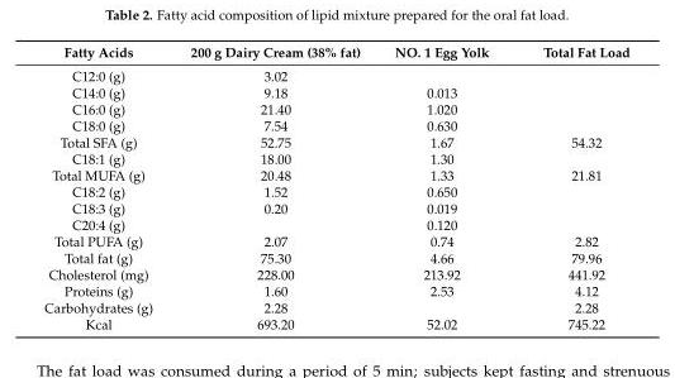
<table><thead><tr><td>Fatty Acids</td><td>200 g Dairy Cream (38% fat)</td><td>NO. 1 Egg Yolk</td><td>Total Fat Load</td></tr></thead><tbody><tr><td>C12:0 (g)</td><td>3.02</td><td></td><td></td></tr><tr><td>C14:0 (g)</td><td>9.18</td><td>0.013</td><td></td></tr><tr><td>C16:0 (g)</td><td>21.40</td><td>1.020</td><td></td></tr><tr><td>C18:0 (g)</td><td>7.54</td><td>0.630</td><td></td></tr><tr><td>Total SFA (g)</td><td>52.75</td><td>1.67</td><td>54.32</td></tr><tr><td>C18:1 (g)</td><td>18.00</td><td>1.30</td><td></td></tr><tr><td>Total MUFA (g)</td><td>20.48</td><td>1.33</td><td>21.81</td></tr><tr><td>C18:2 (g)</td><td>1.52</td><td>0.650</td><td></td></tr><tr><td>C18:3 (g)</td><td>0.20</td><td>0.019</td><td></td></tr><tr><td>C20:4 (g)</td><td></td><td>0.120</td><td></td></tr><tr><td>Total PUFA (g)</td><td>2.07</td><td>0.74</td><td>2.82</td></tr><tr><td>Total fat (g)</td><td>75.30</td><td>4.66</td><td>79.96</td></tr><tr><td>Cholesterol (mg)</td><td>228.00</td><td>213.92</td><td>441.92</td></tr><tr><td>Proteins (g)</td><td>1.60</td><td>2.53</td><td>4.12</td></tr><tr><td>Carbohydrates (g)</td><td>2.28</td><td></td><td>2.28</td></tr><tr><td>Kcal</td><td>693.20</td><td>52.02</td><td>745.22</td></tr></tbody></table>